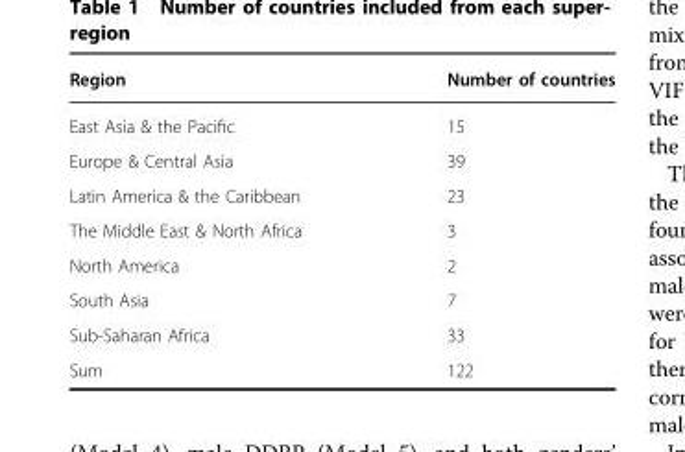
<table><thead><tr><td>Region</td><td>Number of countries</td></tr></thead><tbody><tr><td>East Asia &amp; the Pacific</td><td>15</td></tr><tr><td>Europe &amp; Central Asia</td><td>39</td></tr><tr><td>Latin America &amp; the Caribbean</td><td>23</td></tr><tr><td>The Middle East &amp; North Africa</td><td>3</td></tr><tr><td>North America</td><td>2</td></tr><tr><td>South Asia</td><td>7</td></tr><tr><td>Sub-Saharan Africa</td><td>33</td></tr><tr><td>Sum</td><td>122</td></tr></tbody></table>